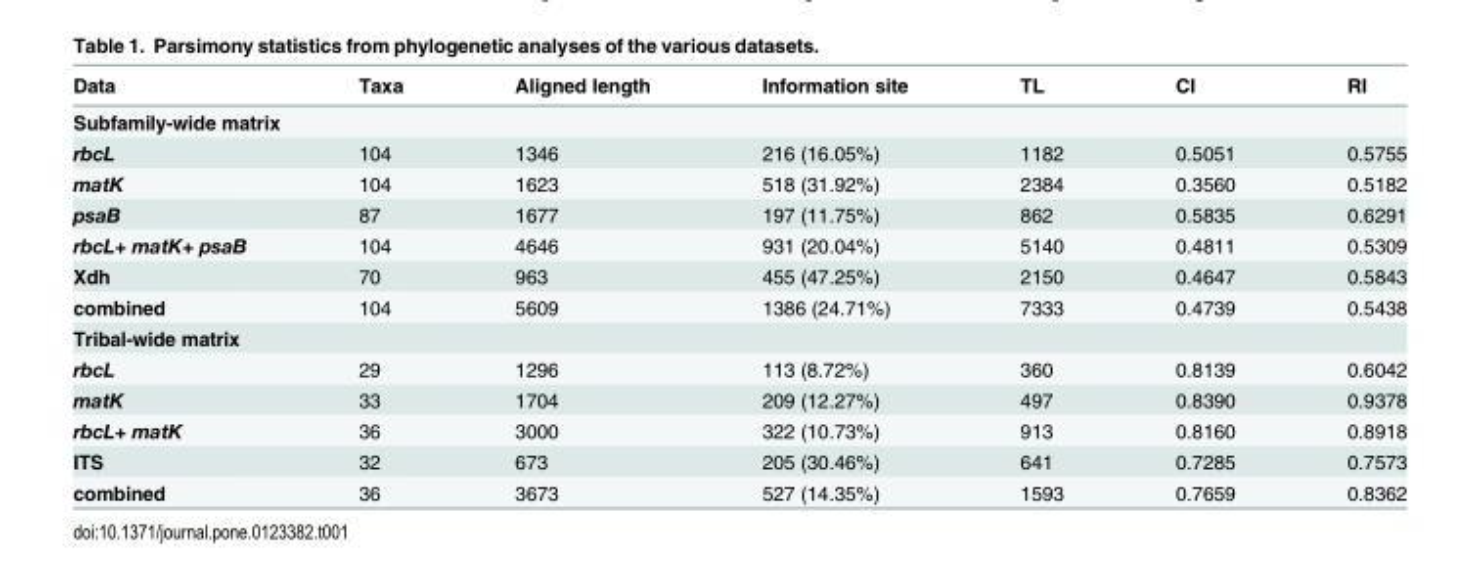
<table><thead><tr><td>Data</td><td>Taxa</td><td>Aligned length</td><td>Information site</td><td>TL</td><td>CI</td><td>RI</td></tr></thead><tbody><tr><td colspan="7">Subfamily-wide matrix</td></tr><tr><td>rbcL</td><td>104</td><td>1346</td><td>216 (16.05%)</td><td>1182</td><td>0.5051</td><td>0.5755</td></tr><tr><td>matK</td><td>104</td><td>1623</td><td>518 (31.92%)</td><td>2384</td><td>0.3560</td><td>0.5182</td></tr><tr><td>psaB</td><td>87</td><td>1677</td><td>197 (11.75%)</td><td>862</td><td>0.5835</td><td>0.6291</td></tr><tr><td>rbcL+ matK+ psaB</td><td>104</td><td>4646</td><td>931 (20.04%)</td><td>5140</td><td>0.4811</td><td>0.5309</td></tr><tr><td>Xdh</td><td>70</td><td>963</td><td>455 (47.25%)</td><td>2150</td><td>0.4647</td><td>0.5843</td></tr><tr><td>combined</td><td>104</td><td>5609</td><td>1386 (24.71%)</td><td>7333</td><td>0.4739</td><td>0.5438</td></tr><tr><td colspan="7">Tribal-wide matrix</td></tr><tr><td>rbcL</td><td>29</td><td>1296</td><td>113 (8.72%)</td><td>360</td><td>0.8139</td><td>0.6042</td></tr><tr><td>matK</td><td>33</td><td>1704</td><td>209 (12.27%)</td><td>497</td><td>0.8390</td><td>0.9378</td></tr><tr><td>rbcL+ matK</td><td>36</td><td>3000</td><td>322 (10.73%)</td><td>913</td><td>0.8160</td><td>0.8918</td></tr><tr><td>ITS</td><td>32</td><td>673</td><td>205 (30.46%)</td><td>641</td><td>0.7285</td><td>0.7573</td></tr><tr><td>combined</td><td>36</td><td>3673</td><td>527 (14.35%)</td><td>1593</td><td>0.7659</td><td>0.8362</td></tr></tbody></table>